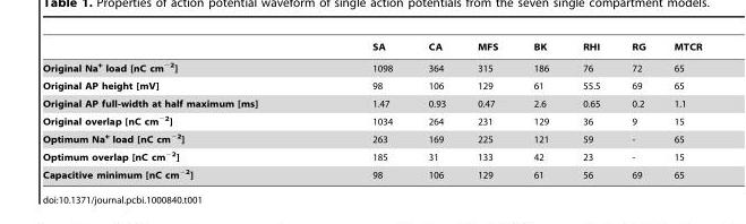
<table><thead><tr><td></td><td>SA</td><td>CA</td><td>MFS</td><td>BK</td><td>RHI</td><td>RG</td><td>MTCR</td></tr></thead><tbody><tr><td>Original Na<sup>+</sup> load [nC cm<sup>−2</sup>]</td><td>1098</td><td>364</td><td>315</td><td>186</td><td>76</td><td>72</td><td>65</td></tr><tr><td>Original AP height [mV]</td><td>98</td><td>106</td><td>129</td><td>61</td><td>55.5</td><td>69</td><td>65</td></tr><tr><td>Original AP full-width at half maximum [ms]</td><td>1.47</td><td>0.93</td><td>0.47</td><td>2.6</td><td>0.65</td><td>0.2</td><td>1.1</td></tr><tr><td>Original overlap [nC cm<sup>−2</sup>]</td><td>1034</td><td>264</td><td>231</td><td>129</td><td>36</td><td>9</td><td>15</td></tr><tr><td>Optimum Na<sup>+</sup> load [nC cm<sup>−2</sup>]</td><td>263</td><td>169</td><td>225</td><td>121</td><td>59</td><td>-</td><td>65</td></tr><tr><td>Optimum overlap [nC cm<sup>−2</sup>]</td><td>185</td><td>31</td><td>133</td><td>42</td><td>23</td><td>-</td><td>15</td></tr><tr><td>Capacitive minimum [nC cm<sup>−2</sup>]</td><td>98</td><td>106</td><td>129</td><td>61</td><td>56</td><td>69</td><td>65</td></tr></tbody></table>